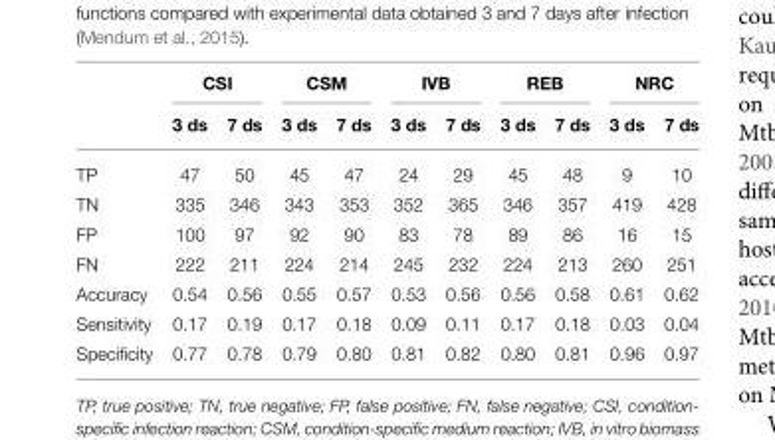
<table><thead><tr><td rowspan="2"></td><td colspan="2">CSI</td><td colspan="2">CSM</td><td colspan="2">IVB</td><td colspan="2">REB</td><td colspan="2">NRC</td></tr><tr><td>3 ds</td><td>7 ds</td><td>3 ds</td><td>7 ds</td><td>3 ds</td><td>7 ds</td><td>3 ds</td><td>7 ds</td><td>3 ds</td><td>7 ds</td></tr></thead><tbody><tr><td>TP</td><td>47</td><td>50</td><td>45</td><td>47</td><td>24</td><td>29</td><td>45</td><td>48</td><td>9</td><td>10</td></tr><tr><td>TN</td><td>335</td><td>346</td><td>343</td><td>353</td><td>352</td><td>365</td><td>346</td><td>357</td><td>419</td><td>428</td></tr><tr><td>FP</td><td>100</td><td>97</td><td>92</td><td>90</td><td>83</td><td>78</td><td>89</td><td>86</td><td>16</td><td>15</td></tr><tr><td>FN</td><td>222</td><td>211</td><td>224</td><td>214</td><td>245</td><td>232</td><td>224</td><td>213</td><td>260</td><td>251</td></tr><tr><td>Accuracy</td><td>0.54</td><td>0.56</td><td>0.55</td><td>0.57</td><td>0.53</td><td>0.56</td><td>0.56</td><td>0.58</td><td>0.61</td><td>0.62</td></tr><tr><td>Sensitivity</td><td>0.17</td><td>0.19</td><td>0.17</td><td>0.18</td><td>0.09</td><td>0.11</td><td>0.17</td><td>0.18</td><td>0.03</td><td>0.04</td></tr><tr><td>Specificity</td><td>0.77</td><td>0.78</td><td>0.79</td><td>0.80</td><td>0.81</td><td>0.82</td><td>0.80</td><td>0.81</td><td>0.96</td><td>0.97</td></tr></tbody></table>